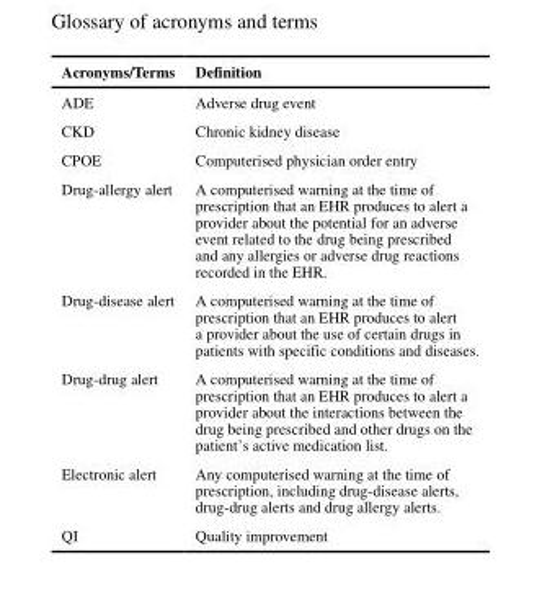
<table><thead><tr><td>Acronyms/Terms</td><td>Definition</td></tr></thead><tbody><tr><td>ADE</td><td>Adverse drug event</td></tr><tr><td>CKD</td><td>Chronic kidney disease</td></tr><tr><td>CPOE</td><td>Computerised physician order entry</td></tr><tr><td>Drug-allergy alert</td><td>A computerised warning at the time of prescription that an EHR produces to alert a provider about the potential for an adverse event related to the drug being prescribed and any allergies or adverse drug reactions recorded in the EHR.</td></tr><tr><td>Drug-disease alert</td><td>A computerised warning at the time of prescription that an EHR produces to alert a provider about the use of certain drugs in patients with specific conditions and diseases.</td></tr><tr><td>Drug-drug alert</td><td>A computerised warning at the time of prescription that an EHR produces to alert a provider about the interactions between the drug being prescribed and other drugs on the patient’s active medication list.</td></tr><tr><td>Electronic alert</td><td>Any computerised warning at the time of prescription, including drug-disease alerts, drug-drug alerts and drug allergy alerts.</td></tr><tr><td>QI</td><td>Quality improvement</td></tr></tbody></table>